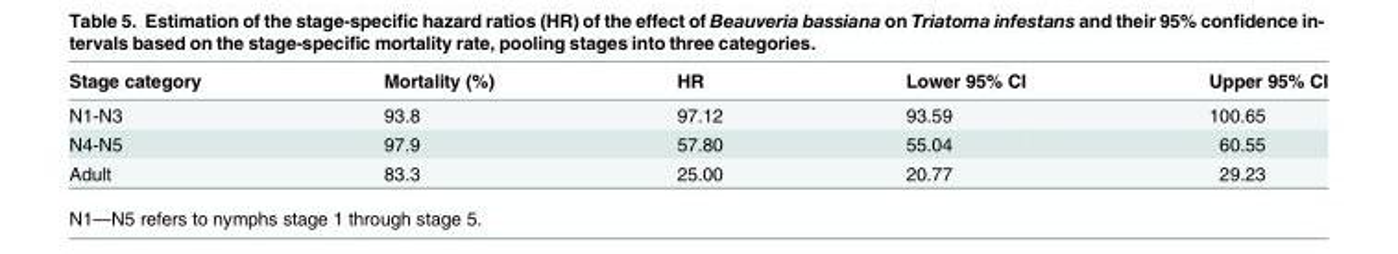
<table><thead><tr><td>Stage category</td><td>Mortality (%)</td><td>HR</td><td>Lower 95% CI</td><td>Upper 95% CI</td></tr></thead><tbody><tr><td>N1-N3</td><td>93.8</td><td>97.12</td><td>93.59</td><td>100.65</td></tr><tr><td>N4-N5</td><td>97.9</td><td>57.80</td><td>55.04</td><td>60.55</td></tr><tr><td>Adult</td><td>83.3</td><td>25.00</td><td>20.77</td><td>29.23</td></tr></tbody></table>